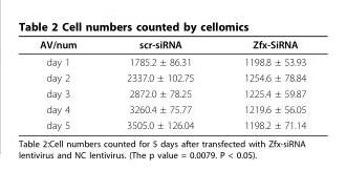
<table><thead><tr><td>AV/num</td><td>scr-siRNA</td><td>Zfx-SiRNA</td></tr></thead><tbody><tr><td>day 1</td><td>1785.2 ± 86.31</td><td>1198.8 ± 53.93</td></tr><tr><td>day 2</td><td>2337.0 ± 102.75</td><td>1254.6 ± 78.84</td></tr><tr><td>day 3</td><td>2872.0 ± 78.25</td><td>1225.4 ± 59.87</td></tr><tr><td>day 4</td><td>3260.4 ± 75.77</td><td>1219.6 ± 56.05</td></tr><tr><td>day 5</td><td>3505.0 ± 126.04</td><td>1198.2 ± 71.14</td></tr></tbody></table>